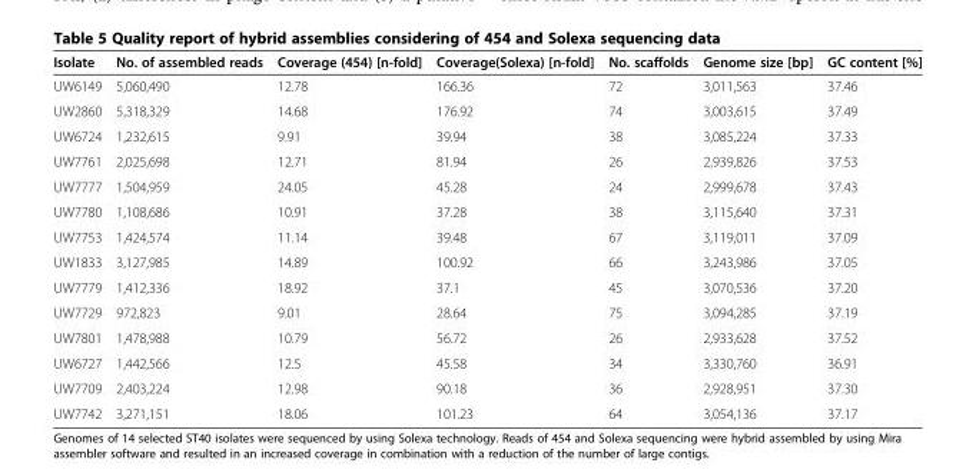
<table><thead><tr><td>Isolate</td><td>No. of assembled reads</td><td>Coverage (454) [n-fold]</td><td>Coverage(Solexa) [n-fold]</td><td>No. scaffolds</td><td>Genome size [bp]</td><td>GC content [%]</td></tr></thead><tbody><tr><td>UW6149</td><td>5,060,490</td><td>12.78</td><td>166.36</td><td>72</td><td>3,011,563</td><td>37.46</td></tr><tr><td>UW2860</td><td>5,318,329</td><td>14.68</td><td>176.92</td><td>74</td><td>3,003,615</td><td>37.49</td></tr><tr><td>UW6724</td><td>1,232,615</td><td>9.91</td><td>39.94</td><td>38</td><td>3,085,224</td><td>37.33</td></tr><tr><td>UW7761</td><td>2,025,698</td><td>12.71</td><td>81.94</td><td>26</td><td>2,939,826</td><td>37.53</td></tr><tr><td>UW7777</td><td>1,504,959</td><td>24.05</td><td>45.28</td><td>24</td><td>2,999,678</td><td>37.43</td></tr><tr><td>UW7780</td><td>1,108,686</td><td>10.91</td><td>37.28</td><td>38</td><td>3,115,640</td><td>37.31</td></tr><tr><td>UW7753</td><td>1,424,574</td><td>11.14</td><td>39.48</td><td>67</td><td>3,119,011</td><td>37.09</td></tr><tr><td>UW1833</td><td>3,127,985</td><td>14.89</td><td>100.92</td><td>66</td><td>3,243,986</td><td>37.05</td></tr><tr><td>UW7779</td><td>1,412,336</td><td>18.92</td><td>37.1</td><td>45</td><td>3,070,536</td><td>37.20</td></tr><tr><td>UW7729</td><td>972,823</td><td>9.01</td><td>28.64</td><td>75</td><td>3,094,285</td><td>37.19</td></tr><tr><td>UW7801</td><td>1,478,988</td><td>10.79</td><td>56.72</td><td>26</td><td>2,933,628</td><td>37.52</td></tr><tr><td>UW6727</td><td>1,442,566</td><td>12.5</td><td>45.58</td><td>34</td><td>3,330,760</td><td>36.91</td></tr><tr><td>UW7709</td><td>2,403,224</td><td>12.98</td><td>90.18</td><td>36</td><td>2,928,951</td><td>37.30</td></tr><tr><td>UW7742</td><td>3,271,151</td><td>18.06</td><td>101.23</td><td>64</td><td>3,054,136</td><td>37.17</td></tr></tbody></table>